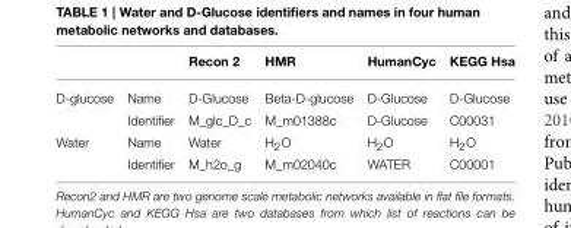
<table><thead><tr><td></td><td></td><td>Recon 2</td><td>HMR</td><td>HumanCyc</td><td>KEGG Hsa</td></tr></thead><tbody><tr><td rowspan="2">D-glucose</td><td>Name</td><td>D-Glucose</td><td>Beta-D-glucose</td><td>D-Glucose</td><td>D-Glucose</td></tr><tr><td>Identifier</td><td>M_glc_D_c</td><td>M_m01388c</td><td>D-Glucose</td><td>C00031</td></tr><tr><td rowspan="2">Water</td><td>Name</td><td>Water</td><td>H<sub>2</sub>O</td><td>H<sub>2</sub>O</td><td>H<sub>2</sub>O</td></tr><tr><td>Identifier</td><td>M_h2o_g</td><td>M_m02040c</td><td>WATER</td><td>C00001</td></tr></tbody></table>